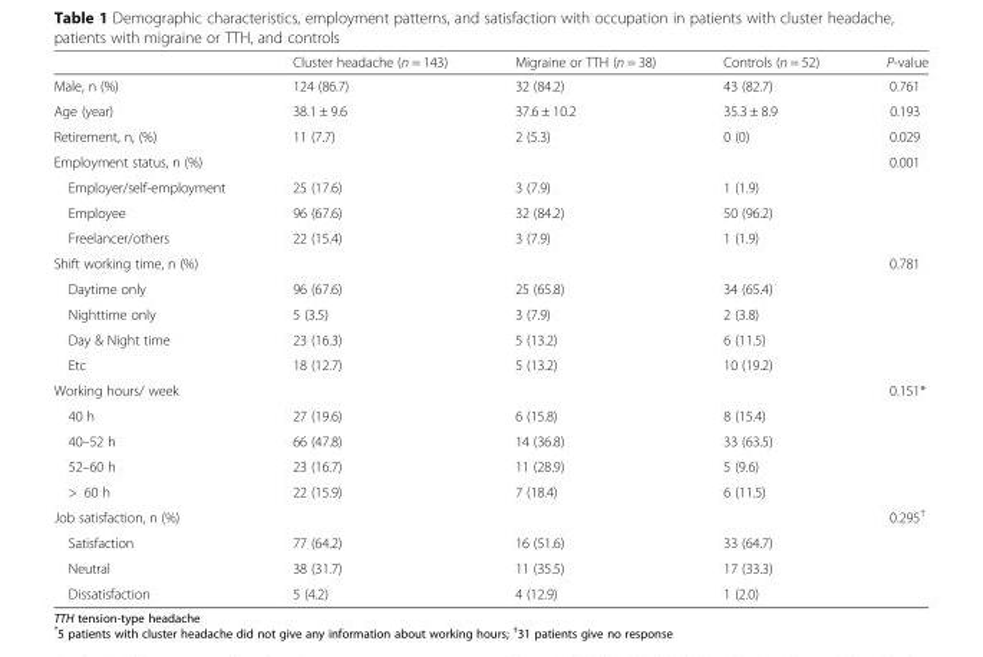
<table><thead><tr><td></td><td>Cluster headache (n = 143)</td><td>Migraine or TTH (n = 38)</td><td>Controls (n = 52)</td><td>P-value</td></tr></thead><tbody><tr><td>Male, n (%)</td><td>124 (86.7)</td><td>32 (84.2)</td><td>43 (82.7)</td><td>0.761</td></tr><tr><td>Age (year)</td><td>38.1 ± 9.6</td><td>37.6 ± 10.2</td><td>35.3 ± 8.9</td><td>0.193</td></tr><tr><td>Retirement, n, (%)</td><td>11 (7.7)</td><td>2 (5.3)</td><td>0 (0)</td><td>0.029</td></tr><tr><td>Employment status, n (%)</td><td></td><td></td><td></td><td>0.001</td></tr><tr><td>Employer/self-employment</td><td>25 (17.6)</td><td>3 (7.9)</td><td>1 (1.9)</td><td></td></tr><tr><td>Employee</td><td>96 (67.6)</td><td>32 (84.2)</td><td>50 (96.2)</td><td></td></tr><tr><td>Freelancer/others</td><td>22 (15.4)</td><td>3 (7.9)</td><td>1 (1.9)</td><td></td></tr><tr><td>Shift working time, n (%)</td><td></td><td></td><td></td><td>0.781</td></tr><tr><td>Daytime only</td><td>96 (67.6)</td><td>25 (65.8)</td><td>34 (65.4)</td><td></td></tr><tr><td>Nighttime only</td><td>5 (3.5)</td><td>3 (7.9)</td><td>2 (3.8)</td><td></td></tr><tr><td>Day &amp; Night time</td><td>23 (16.3)</td><td>5 (13.2)</td><td>6 (11.5)</td><td></td></tr><tr><td>Etc</td><td>18 (12.7)</td><td>5 (13.2)</td><td>10 (19.2)</td><td></td></tr><tr><td>Working hours/ week</td><td></td><td></td><td></td><td>0.151*</td></tr><tr><td>40 h</td><td>27 (19.6)</td><td>6 (15.8)</td><td>8 (15.4)</td><td></td></tr><tr><td>40–52 h</td><td>66 (47.8)</td><td>14 (36.8)</td><td>33 (63.5)</td><td></td></tr><tr><td>52–60 h</td><td>23 (16.7)</td><td>11 (28.9)</td><td>5 (9.6)</td><td></td></tr><tr><td>&gt; 60 h</td><td>22 (15.9)</td><td>7 (18.4)</td><td>6 (11.5)</td><td></td></tr><tr><td>Job satisfaction, n (%)</td><td></td><td></td><td></td><td>0.295<sup>†</sup></td></tr><tr><td>Satisfaction</td><td>77 (64.2)</td><td>16 (51.6)</td><td>33 (64.7)</td><td></td></tr><tr><td>Neutral</td><td>38 (31.7)</td><td>11 (35.5)</td><td>17 (33.3)</td><td></td></tr><tr><td>Dissatisfaction</td><td>5 (4.2)</td><td>4 (12.9)</td><td>1 (2.0)</td><td></td></tr></tbody></table>